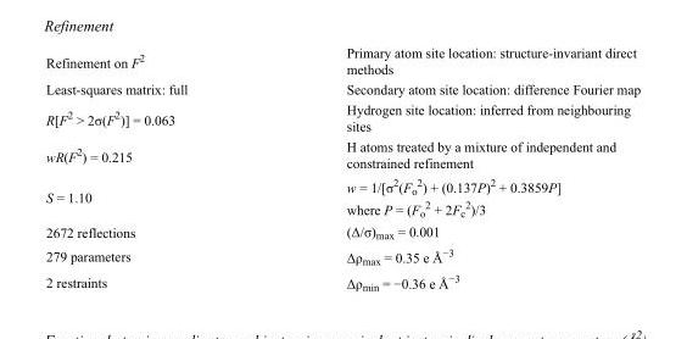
<table><tbody><tr><td>Refinement on F<sup>2</sup></td><td>Primary atom site location: structure-invariant direct methods</td></tr><tr><td>Least-squares matrix: full</td><td>Secondary atom site location: difference Fourier map</td></tr><tr><td>R[F<sup>2</sup> &gt; 2σ(F<sup>2</sup>)] = 0.063</td><td>Hydrogen site location: inferred from neighbouring sites</td></tr><tr><td>wR(F<sup>2</sup>) = 0.215</td><td>H atoms treated by a mixture of independent and constrained refinement</td></tr><tr><td>S = 1.10</td><td>w = 1/[σ<sup>2</sup>(F<sub>o</sub> <sup>2</sup>) + (0.137P)<sup>2</sup> + 0.3859P] where P = (F<sub>o</sub> <sup>2</sup> + 2F<sub>c</sub> <sup>2</sup>)/3</td></tr><tr><td>2672 reflections</td><td>(Δ/σ)<sub>max</sub> = 0.001</td></tr><tr><td>279 parameters</td><td>Δρ<sub>max</sub> = 0.35 e Å<sup>−3</sup></td></tr><tr><td>2 restraints</td><td>Δρ<sub>min</sub> = −0.36 e Å<sup>−3</sup></td></tr></tbody></table>